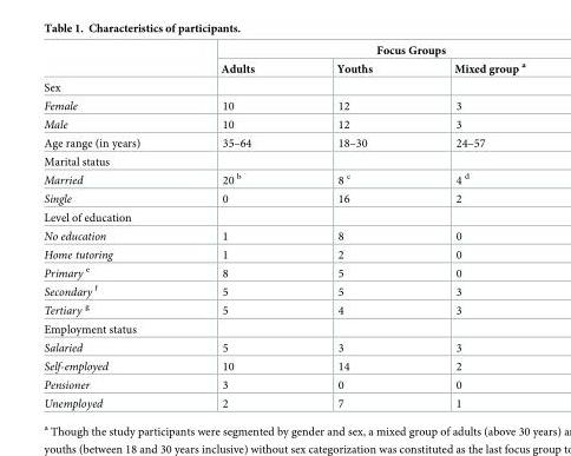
<table><thead><tr><td rowspan="2"></td><td colspan="3">Focus Groups</td></tr><tr><td>Adults</td><td>Youths</td><td>Mixed group <sup>a</sup></td></tr></thead><tbody><tr><td colspan="4">Sex</td></tr><tr><td>Female</td><td>10</td><td>12</td><td>3</td></tr><tr><td>Male</td><td>10</td><td>12</td><td>3</td></tr><tr><td>Age range (in years)</td><td>35–64</td><td>18–30</td><td>24–57</td></tr><tr><td colspan="4">Marital status</td></tr><tr><td>Married</td><td>20 <sup>b</sup></td><td>8 <sup>c</sup></td><td>4 <sup>d</sup></td></tr><tr><td>Single</td><td>0</td><td>16</td><td>2</td></tr><tr><td colspan="4">Level of education</td></tr><tr><td>No education</td><td>1</td><td>8</td><td>0</td></tr><tr><td>Home tutoring</td><td>1</td><td>2</td><td>0</td></tr><tr><td>Primary <sup>e</sup></td><td>8</td><td>5</td><td>0</td></tr><tr><td>Secondary <sup>f</sup></td><td>5</td><td>5</td><td>3</td></tr><tr><td>Tertiary <sup>g</sup></td><td>5</td><td>4</td><td>3</td></tr><tr><td colspan="4">Employment status</td></tr><tr><td>Salaried</td><td>5</td><td>3</td><td>3</td></tr><tr><td>Self-employed</td><td>10</td><td>14</td><td>2</td></tr><tr><td>Pensioner</td><td>3</td><td>0</td><td>0</td></tr><tr><td>Unemployed</td><td>2</td><td>7</td><td>1</td></tr></tbody></table>